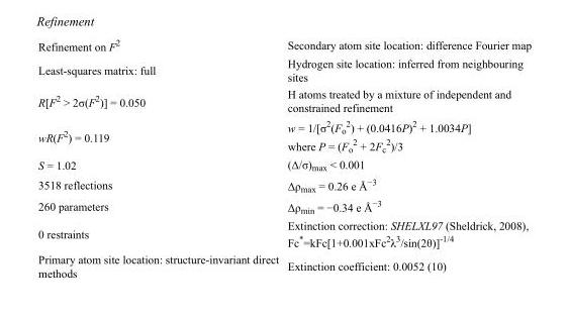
<table><tbody><tr><td>Refinement on F<sup>2</sup></td><td>Secondary atom site location: difference Fourier map</td></tr><tr><td>Least-squares matrix: full</td><td>Hydrogen site location: inferred from neighbouring sites</td></tr><tr><td>R[F<sup>2</sup> &gt; 2σ(F<sup>2</sup>)] = 0.050</td><td>H atoms treated by a mixture of independent and constrained refinement</td></tr><tr><td>wR(F<sup>2</sup>) = 0.119</td><td>w = 1/[σ<sup>2</sup>(F<sub>o</sub> <sup>2</sup>) + (0.0416P)<sup>2</sup> + 1.0034P] where P = (F<sub>o</sub> <sup>2</sup> + 2F<sub>c</sub> <sup>2</sup>)/3</td></tr><tr><td>S = 1.02</td><td>(Δ/σ)<sub>max</sub> &lt; 0.001</td></tr><tr><td>3518 reflections</td><td>Δρ<sub>max</sub> = 0.26 e Å<sup>−3</sup></td></tr><tr><td>260 parameters</td><td>Δρ<sub>min</sub> = −0.34 e Å<sup>−3</sup></td></tr><tr><td>0 restraints</td><td>Extinction correction: SHELXL97 (Sheldrick, 2008), Fc*=kFc[1+0.001xFc<sup>2</sup>λ<sup>3</sup>/sin(2θ)]<sup>-1/4</sup></td></tr><tr><td>Primary atom site location: structure-invariant direct methods</td><td>Extinction coefficient: 0.0052 (10)</td></tr></tbody></table>